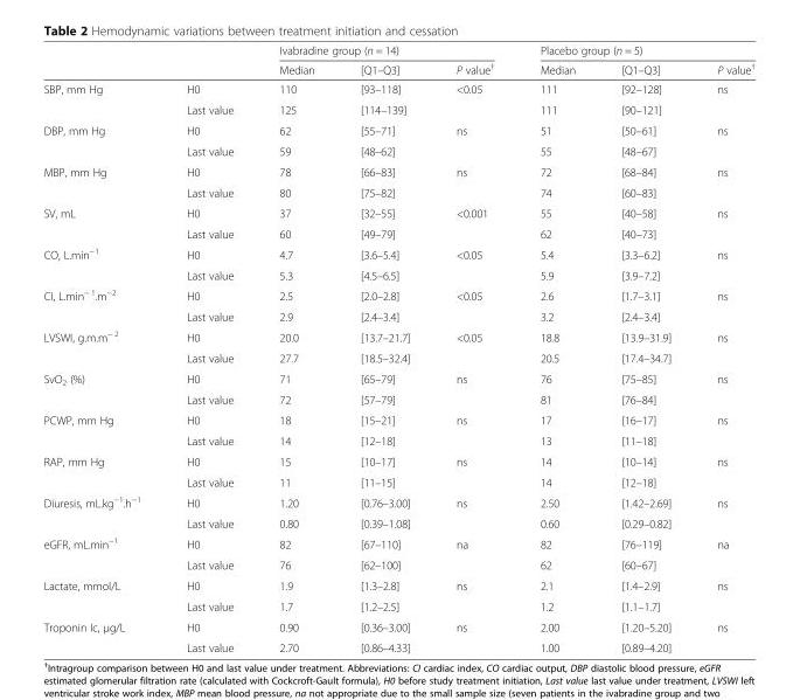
<table><thead><tr><td rowspan="2"></td><td rowspan="2"></td><td colspan="3">Ivabradine group (n = 14)</td><td colspan="3">Placebo group (n = 5)</td></tr><tr><td>Median</td><td>[Q1–Q3]</td><td>P value<sup>†</sup></td><td>Median</td><td>[Q1–Q3]</td><td>P value<sup>†</sup></td></tr></thead><tbody><tr><td rowspan="2">SBP, mm Hg</td><td>H0</td><td>110</td><td>[93–118]</td><td rowspan="2">&lt;0.05</td><td>111</td><td>[92–128]</td><td rowspan="2">ns</td></tr><tr><td>Last value</td><td>125</td><td>[114–139]</td><td>111</td><td>[90–121]</td></tr><tr><td rowspan="2">DBP, mm Hg</td><td>H0</td><td>62</td><td>[55–71]</td><td rowspan="2">ns</td><td>51</td><td>[50–61]</td><td rowspan="2">ns</td></tr><tr><td>Last value</td><td>59</td><td>[48–62]</td><td>55</td><td>[48–67]</td></tr><tr><td rowspan="2">MBP, mm Hg</td><td>H0</td><td>78</td><td>[66–83]</td><td rowspan="2">ns</td><td>72</td><td>[68–84]</td><td rowspan="2">ns</td></tr><tr><td>Last value</td><td>80</td><td>[75–82]</td><td>74</td><td>[60–83]</td></tr><tr><td rowspan="2">SV, mL</td><td>H0</td><td>37</td><td>[32–55]</td><td rowspan="2">&lt;0.001</td><td>55</td><td>[40–58]</td><td rowspan="2">ns</td></tr><tr><td>Last value</td><td>60</td><td>[49–79]</td><td>62</td><td>[40–73]</td></tr><tr><td rowspan="2">CO, L.min<sup>−1</sup></td><td>H0</td><td>4.7</td><td>[3.6–5.4]</td><td rowspan="2">&lt;0.05</td><td>5.4</td><td>[3.3–6.2]</td><td rowspan="2">ns</td></tr><tr><td>Last value</td><td>5.3</td><td>[4.5–6.5]</td><td>5.9</td><td>[3.9–7.2]</td></tr><tr><td rowspan="2">CI, L.min<sup>− 1</sup>.m<sup>−2</sup></td><td>H0</td><td>2.5</td><td>[2.0–2.8]</td><td rowspan="2">&lt;0.05</td><td>2.6</td><td>[1.7–3.1]</td><td rowspan="2">ns</td></tr><tr><td>Last value</td><td>2.9</td><td>[2.4–3.4]</td><td>3.2</td><td>[2.4–3.4]</td></tr><tr><td rowspan="2">LVSWI, g.m.m<sup>− 2</sup></td><td>H0</td><td>20.0</td><td>[13.7–21.7]</td><td rowspan="2">&lt;0.05</td><td>18.8</td><td>[13.9–31.9]</td><td rowspan="2">ns</td></tr><tr><td>Last value</td><td>27.7</td><td>[18.5–32.4]</td><td>20.5</td><td>[17.4–34.7]</td></tr><tr><td rowspan="2">SvO<sub>2</sub> (%)</td><td>H0</td><td>71</td><td>[65–79]</td><td rowspan="2">ns</td><td>76</td><td>[75–85]</td><td rowspan="2">ns</td></tr><tr><td>Last value</td><td>72</td><td>[57–79]</td><td>81</td><td>[76–84]</td></tr><tr><td rowspan="2">PCWP, mm Hg</td><td>H0</td><td>18</td><td>[15–21]</td><td rowspan="2">ns</td><td>17</td><td>[16–17]</td><td rowspan="2">ns</td></tr><tr><td>Last value</td><td>14</td><td>[12–18]</td><td>13</td><td>[11–18]</td></tr><tr><td rowspan="2">RAP, mm Hg</td><td>H0</td><td>15</td><td>[10–17]</td><td rowspan="2">ns</td><td>14</td><td>[10–14]</td><td rowspan="2">ns</td></tr><tr><td>Last value</td><td>11</td><td>[11–15]</td><td>14</td><td>[12–18]</td></tr><tr><td rowspan="2">Diuresis, mL.kg<sup>−1</sup>.h<sup>−1</sup></td><td>H0</td><td>1.20</td><td>[0.76–3.00]</td><td rowspan="2">ns</td><td>2.50</td><td>[1.42–2.69]</td><td rowspan="2">ns</td></tr><tr><td>Last value</td><td>0.80</td><td>[0.39–1.08]</td><td>0.60</td><td>[0.29–0.82]</td></tr><tr><td rowspan="2">eGFR, mL.min<sup>−1</sup></td><td>H0</td><td>82</td><td>[67–110]</td><td rowspan="2">na</td><td>82</td><td>[76–119]</td><td rowspan="2">na</td></tr><tr><td>Last value</td><td>76</td><td>[62–100]</td><td>62</td><td>[60–67]</td></tr><tr><td rowspan="2">Lactate, mmol/L</td><td>H0</td><td>1.9</td><td>[1.3–2.8]</td><td rowspan="2">ns</td><td>2.1</td><td>[1.4–2.9]</td><td rowspan="2">ns</td></tr><tr><td>Last value</td><td>1.7</td><td>[1.2–2.5]</td><td>1.2</td><td>[1.1–1.7]</td></tr><tr><td rowspan="2">Troponin Ic, μg/L</td><td>H0</td><td>0.90</td><td>[0.36–3.00]</td><td rowspan="2">ns</td><td>2.00</td><td>[1.20–5.20]</td><td rowspan="2">ns</td></tr><tr><td>Last value</td><td>2.70</td><td>[0.86–4.33]</td><td>1.00</td><td>[0.89–4.20]</td></tr></tbody></table>